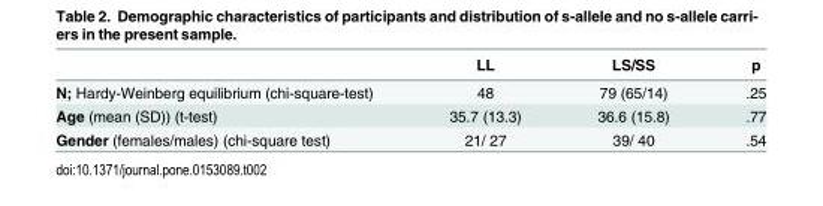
<table><thead><tr><td></td><td>LL</td><td>LS/SS</td><td>p</td></tr></thead><tbody><tr><td>N; Hardy-Weinberg equilibrium (chi-square-test)</td><td>48</td><td>79 (65/14)</td><td>.25</td></tr><tr><td>Age (mean (SD)) (t-test)</td><td>35.7 (13.3)</td><td>36.6 (15.8)</td><td>.77</td></tr><tr><td>Gender (females/males) (chi-square test)</td><td>21/ 27</td><td>39/ 40</td><td>.54</td></tr></tbody></table>